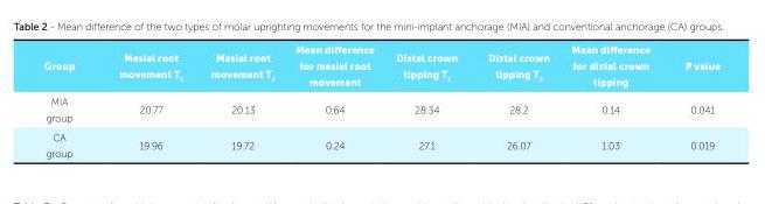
<table><tbody><tr><td>Group</td><td>Mesial root movement T<sub>1</sub></td><td>Mesial root movement T<sub>2</sub></td><td>Mean difference for mesial root movement</td><td>Distal crown tipping T<sub>1</sub></td><td>Distal crown tipping T<sub>2</sub></td><td>Mean difference for distal crown tipping</td><td>P value</td></tr><tr><td>MIA group</td><td>20.77</td><td>20.13</td><td>0.64</td><td>28.34</td><td>28.2</td><td>0.14</td><td>0.041</td></tr><tr><td>CA group</td><td>19.96</td><td>19.72</td><td>0.24</td><td>27.1</td><td>26.07</td><td>1.03</td><td>0.019</td></tr></tbody></table>